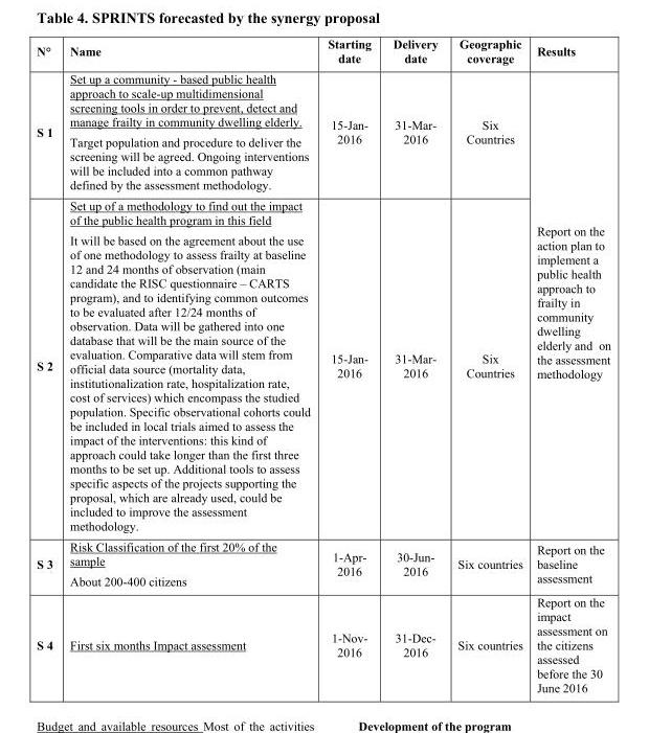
<table><thead><tr><td>N°</td><td>Name</td><td>Starting date</td><td>Delivery date</td><td>Geographic coverage</td><td>Results</td></tr></thead><tbody><tr><td>S 1</td><td>Set up a community - based public health approach to scale-up multidimensional screening tools in order to prevent, detect and manage frailty in community dwelling elderly. Target population and procedure to deliver the screening will be agreed. Ongoing interventions will be included into a common pathway defined by the assessment methodology.</td><td>15-Jan- 2016</td><td>31-Mar- 2016</td><td>Six Countries</td><td rowspan="2">Report on the action plan to implement a public health approach to frailty in community dwelling elderly and on the assessment methodology</td></tr><tr><td>S 2</td><td>Set up of a methodology to find out the impact of the public health program in this field It will be based on the agreement about the use of one methodology to assess frailty at baseline 12 and 24 months of observation (main candidate the RISC questionnaire – CARTS program), and to identifying common outcomes to be evaluated after 12/24 months of observation. Data will be gathered into one database that will be the main source of the evaluation. Comparative data will stem from official data source (mortality data, institutionalization rate, hospitalization rate, cost of services) which encompass the studied population. Specific observational cohorts could be included in local trials aimed to assess the impact of the interventions: this kind of approach could take longer than the first three months to be set up. Additional tools to assess specific aspects of the projects supporting the proposal, which are already used, could be included to improve the assessment methodology.</td><td>15-Jan- 2016</td><td>31-Mar- 2016</td><td>Six Countries</td></tr><tr><td>S 3</td><td>Risk Classification of the first 20% of the sample About 200-400 citizens</td><td>1-Apr- 2016</td><td>30-Jun- 2016</td><td>Six countries</td><td>Report on the baseline assessment</td></tr><tr><td>S 4</td><td>First six months Impact assessment</td><td>1-Nov- 2016</td><td>31-Dec- 2016</td><td>Six countries</td><td>Report on the impact assessment on the citizens assessed before the 30 June 2016</td></tr></tbody></table>